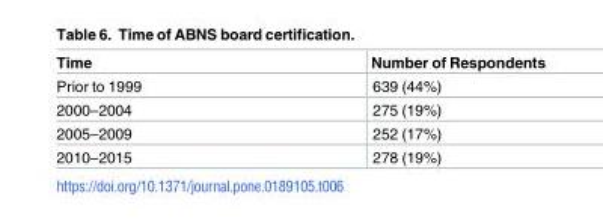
<table><thead><tr><td>Time</td><td>Number of Respondents</td></tr></thead><tbody><tr><td>Prior to 1999</td><td>639 (44%)</td></tr><tr><td>2000–2004</td><td>275 (19%)</td></tr><tr><td>2005–2009</td><td>252 (17%)</td></tr><tr><td>2010–2015</td><td>278 (19%)</td></tr></tbody></table>